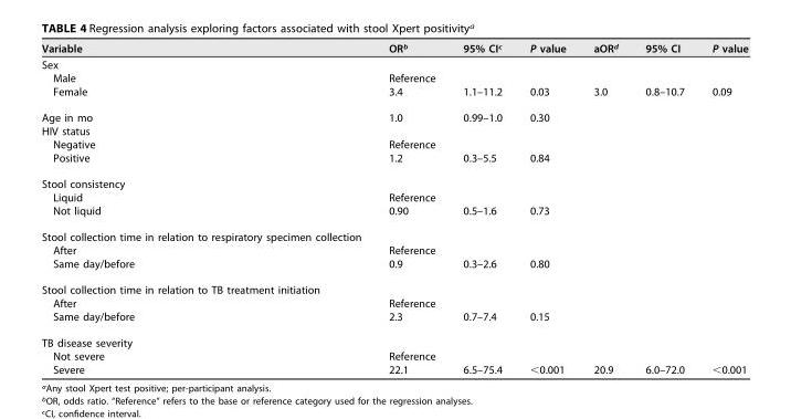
<table><thead><tr><td>Variable</td><td>OR<sup>b</sup></td><td>95% CI<sup>c</sup></td><td>P value</td><td>aOR<sup>d</sup></td><td>95% CI</td><td>P value</td></tr></thead><tbody><tr><td colspan="7">Sex</td></tr><tr><td>Male</td><td>Reference</td><td></td><td></td><td></td><td></td><td></td></tr><tr><td>Female</td><td>3.4</td><td>1.1–11.2</td><td>0.03</td><td>3.0</td><td>0.8–10.7</td><td>0.09</td></tr><tr><td>Age in mo</td><td>1.0</td><td>0.99–1.0</td><td>0.30</td><td></td><td></td><td></td></tr><tr><td colspan="7">HIV status</td></tr><tr><td>Negative</td><td>Reference</td><td></td><td></td><td></td><td></td><td></td></tr><tr><td>Positive</td><td>1.2</td><td>0.3–5.5</td><td>0.84</td><td></td><td></td><td></td></tr><tr><td colspan="7">Stool consistency</td></tr><tr><td>Liquid</td><td>Reference</td><td></td><td></td><td></td><td></td><td></td></tr><tr><td>Not liquid</td><td>0.90</td><td>0.5–1.6</td><td>0.73</td><td></td><td></td><td></td></tr><tr><td colspan="7">Stool collection time in relation to respiratory specimen collection</td></tr><tr><td>After</td><td>Reference</td><td></td><td></td><td></td><td></td><td></td></tr><tr><td>Same day/before</td><td>0.9</td><td>0.3–2.6</td><td>0.80</td><td></td><td></td><td></td></tr><tr><td colspan="7">Stool collection time in relation to TB treatment initiation</td></tr><tr><td>After</td><td>Reference</td><td></td><td></td><td></td><td></td><td></td></tr><tr><td>Same day/before</td><td>2.3</td><td>0.7–7.4</td><td>0.15</td><td></td><td></td><td></td></tr><tr><td colspan="7">TB disease severity</td></tr><tr><td>Not severe</td><td>Reference</td><td></td><td></td><td></td><td></td><td></td></tr><tr><td>Severe</td><td>22.1</td><td>6.5–75.4</td><td>&lt;0.001</td><td>20.9</td><td>6.0–72.0</td><td>&lt;0.001</td></tr></tbody></table>